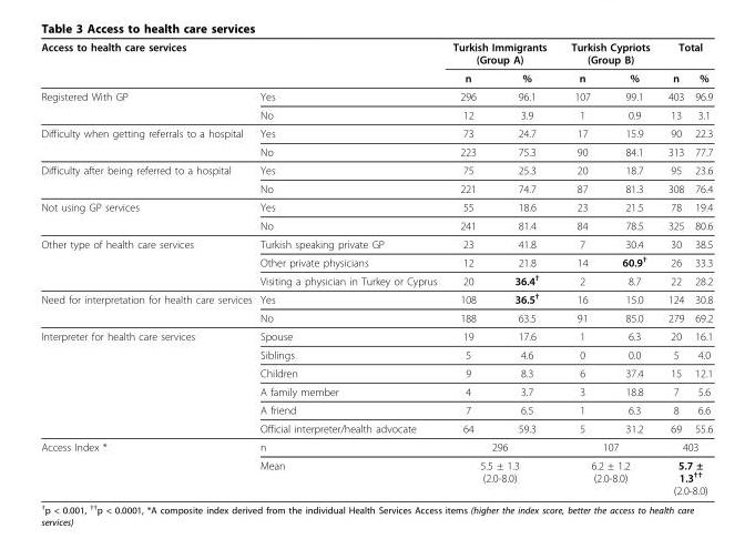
<table><thead><tr><td colspan="2">Access to health care services</td><td colspan="2">Turkish Immigrants (Group A)</td><td colspan="2">Turkish Cypriots (Group B)</td><td colspan="2">Total</td></tr><tr><td></td><td></td><td>n</td><td>%</td><td>n</td><td>%</td><td>n</td><td>%</td></tr></thead><tbody><tr><td rowspan="2">Registered With GP</td><td>Yes</td><td>296</td><td>96.1</td><td>107</td><td>99.1</td><td>403</td><td>96.9</td></tr><tr><td>No</td><td>12</td><td>3.9</td><td>1</td><td>0.9</td><td>13</td><td>3.1</td></tr><tr><td rowspan="2">Difficulty when getting referrals to a hospital</td><td>Yes</td><td>73</td><td>24.7</td><td>17</td><td>15.9</td><td>90</td><td>22.3</td></tr><tr><td>No</td><td>223</td><td>75.3</td><td>90</td><td>84.1</td><td>313</td><td>77.7</td></tr><tr><td rowspan="2">Difficulty after being referred to a hospital</td><td>Yes</td><td>75</td><td>25.3</td><td>20</td><td>18.7</td><td>95</td><td>23.6</td></tr><tr><td>No</td><td>221</td><td>74.7</td><td>87</td><td>81.3</td><td>308</td><td>76.4</td></tr><tr><td rowspan="2">Not using GP services</td><td>Yes</td><td>55</td><td>18.6</td><td>23</td><td>21.5</td><td>78</td><td>19.4</td></tr><tr><td>No</td><td>241</td><td>81.4</td><td>84</td><td>78.5</td><td>325</td><td>80.6</td></tr><tr><td rowspan="3">Other type of health care services</td><td>Turkish speaking private GP</td><td>23</td><td>41.8</td><td>7</td><td>30.4</td><td>30</td><td>38.5</td></tr><tr><td>Other private physicians</td><td>12</td><td>21.8</td><td>14</td><td>60.9<sup>†</sup></td><td>26</td><td>33.3</td></tr><tr><td>Visiting a physician in Turkey or Cyprus</td><td>20</td><td>36.4<sup>†</sup></td><td>2</td><td>8.7</td><td>22</td><td>28.2</td></tr><tr><td rowspan="2">Need for interpretation for health care services</td><td>Yes</td><td>108</td><td>36.5<sup>†</sup></td><td>16</td><td>15.0</td><td>124</td><td>30.8</td></tr><tr><td>No</td><td>188</td><td>63.5</td><td>91</td><td>85.0</td><td>279</td><td>69.2</td></tr><tr><td rowspan="6">Interpreter for health care services</td><td>Spouse</td><td>19</td><td>17.6</td><td>1</td><td>6.3</td><td>20</td><td>16.1</td></tr><tr><td>Siblings</td><td>5</td><td>4.6</td><td>0</td><td>0.0</td><td>5</td><td>4.0</td></tr><tr><td>Children</td><td>9</td><td>8.3</td><td>6</td><td>37.4</td><td>15</td><td>12.1</td></tr><tr><td>A family member</td><td>4</td><td>3.7</td><td>3</td><td>18.8</td><td>7</td><td>5.6</td></tr><tr><td>A friend</td><td>7</td><td>6.5</td><td>1</td><td>6.3</td><td>8</td><td>6.6</td></tr><tr><td>Official interpreter/health advocate</td><td>64</td><td>59.3</td><td>5</td><td>31.2</td><td>69</td><td>55.6</td></tr><tr><td rowspan="2">Access Index *</td><td>n</td><td colspan="2">296</td><td colspan="2">107</td><td colspan="2">403</td></tr><tr><td>Mean</td><td colspan="2">5.5 ± 1.3 (2.0-8.0)</td><td colspan="2">6.2 ± 1.2 (2.0-8.0)</td><td colspan="2">5.7 ± 1.3<sup>††</sup> (2.0-8.0)</td></tr></tbody></table>